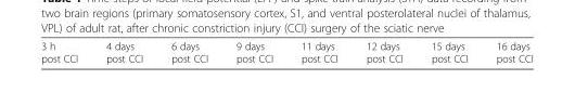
<table><tbody><tr><td>3 h post CCI</td><td>4 days post CCI</td><td>6 days post CCI</td><td>9 days post CCI</td><td>11 days post CCI</td><td>12 days post CCI</td><td>15 days post CCI</td><td>16 days post CCI</td></tr></tbody></table>